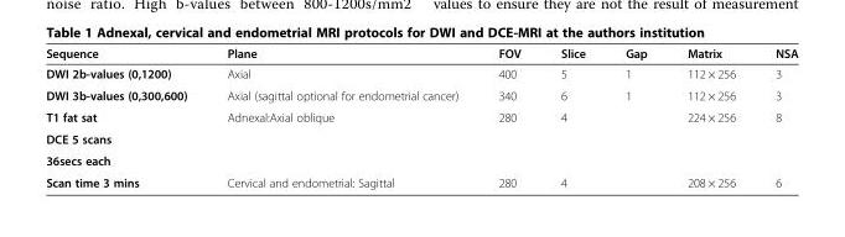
<table><thead><tr><td>Sequence</td><td>Plane</td><td>FOV</td><td>Slice</td><td>Gap</td><td>Matrix</td><td>NSA</td></tr></thead><tbody><tr><td>DWI 2b-values (0,1200)</td><td>Axial</td><td>400</td><td>5</td><td>1</td><td>112 × 256</td><td>3</td></tr><tr><td>DWI 3b-values (0,300,600)</td><td>Axial (sagittal optional for endometrial cancer)</td><td>340</td><td>6</td><td>1</td><td>112 × 256</td><td>3</td></tr><tr><td>T1 fat sat</td><td rowspan="3">Adnexal:Axial oblique</td><td rowspan="3">280</td><td rowspan="3">4</td><td rowspan="3"></td><td rowspan="3">224 × 256</td><td rowspan="3">8</td></tr><tr><td>DCE 5 scans</td></tr><tr><td>36secs each</td></tr><tr><td>Scan time 3 mins</td><td>Cervical and endometrial: Sagittal</td><td>280</td><td>4</td><td></td><td>208 × 256</td><td>6</td></tr></tbody></table>